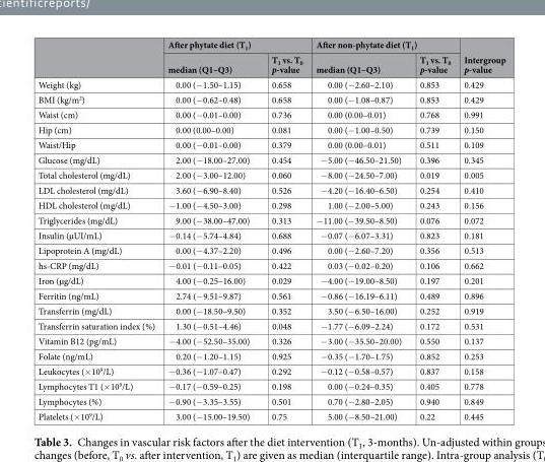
<table><thead><tr><td rowspan="2"></td><td colspan="2">After phytate diet (T<sub>1</sub>)</td><td colspan="2">After non-phytate diet (T<sub>1</sub>)</td><td rowspan="2">Intergroup p-value</td></tr><tr><td>median (Q1–Q3)</td><td>T<sub>1</sub> vs. T<sub>0</sub> p-value</td><td>median (Q1–Q3)</td><td>T<sub>1</sub> vs. T<sub>0</sub> p-value</td></tr></thead><tbody><tr><td>Weight (kg)</td><td>0.00 (−1.50–1.15)</td><td>0.658</td><td>0.00 (−2.60–2.10)</td><td>0.853</td><td>0.429</td></tr><tr><td>BMI (kg/m<sup>2</sup>)</td><td>0.00 (−0.62–0.48)</td><td>0.658</td><td>0.00 (−1.08–0.87)</td><td>0.853</td><td>0.429</td></tr><tr><td>Waist (cm)</td><td>0.00 (−0.01–0.00)</td><td>0.736</td><td>0.00 (0.00–0.01)</td><td>0.768</td><td>0.991</td></tr><tr><td>Hip (cm)</td><td>0.00 (0.00–0.00)</td><td>0.081</td><td>0.00 (−1.00–0.50)</td><td>0.739</td><td>0.150</td></tr><tr><td>Waist/Hip</td><td>0.00 (−0.01–0.00)</td><td>0.379</td><td>0.00 (0.00–0.01)</td><td>0.511</td><td>0.109</td></tr><tr><td>Glucose (mg/dL)</td><td>2.00 (−18.00–27.00)</td><td>0.454</td><td>−5.00 (−46.50–21.50)</td><td>0.396</td><td>0.345</td></tr><tr><td>Total cholesterol (mg/dL)</td><td>2.00 (−3.00–12.00)</td><td>0.060</td><td>−8.00 (−24.50–7.00)</td><td>0.019</td><td>0.005</td></tr><tr><td>LDL cholesterol (mg/dL)</td><td>3.60 (−6.90–8.40)</td><td>0.526</td><td>−4.20 (−16.40–6.50)</td><td>0.254</td><td>0.410</td></tr><tr><td>HDL cholesterol (mg/dL)</td><td>−1.00 (−4.50–3.00)</td><td>0.298</td><td>1.00 (−2.00–5.00)</td><td>0.243</td><td>0.156</td></tr><tr><td>Triglycerides (mg/dL)</td><td>9.00 (−38.00–47.00)</td><td>0.313</td><td>−11.00 (−39.50–8.50)</td><td>0.076</td><td>0.072</td></tr><tr><td>Insulin (µUI/mL)</td><td>−0.14 (−5.74–4.84)</td><td>0.688</td><td>−0.07 (−6.07–3.31)</td><td>0.823</td><td>0.181</td></tr><tr><td>Lipoprotein A (mg/dL)</td><td>0.00 (−4.37–2.20)</td><td>0.496</td><td>0.00 (−2.60–7.20)</td><td>0.356</td><td>0.513</td></tr><tr><td>hs-CRP (mg/dL)</td><td>−0.01 (−0.11–0.05)</td><td>0.422</td><td>0.03 (−0.02–0.20)</td><td>0.106</td><td>0.662</td></tr><tr><td>Iron (µg/dL)</td><td>4.00 (−0.25–16.00)</td><td>0.029</td><td>−4.00 (−19.00–8.50)</td><td>0.197</td><td>0.201</td></tr><tr><td>Ferritin (ng/mL)</td><td>2.74 (−9.51–9.87)</td><td>0.561</td><td>−0.86 (−16.19–6.11)</td><td>0.489</td><td>0.896</td></tr><tr><td>Transferrin (mg/dL)</td><td>0.00 (−18.50–9.50)</td><td>0.352</td><td>3.50 (−6.50–16.00)</td><td>0.252</td><td>0.919</td></tr><tr><td>Transferrin saturation index (%)</td><td>1.30 (−0.51–4.46)</td><td>0.048</td><td>−1.77 (−6.09–2.24)</td><td>0.172</td><td>0.531</td></tr><tr><td>Vitamin B12 (pg/mL)</td><td>−4.00 (−52.50–35.00)</td><td>0.326</td><td>−3.00 (−35.50–20.00)</td><td>0.550</td><td>0.137</td></tr><tr><td>Folate (ng/mL)</td><td>0.20 (−1.20–1.15)</td><td>0.925</td><td>−0.35 (−1.70–1.75)</td><td>0.852</td><td>0.253</td></tr><tr><td>Leukocytes (×10<sup>9</sup>/L)</td><td>−0.36 (−1.07–0.47)</td><td>0.292</td><td>−0.12 (−0.58–0.57)</td><td>0.837</td><td>0.158</td></tr><tr><td>Lymphocytes T1 (×10<sup>9</sup>/L)</td><td>−0.17 (−0.59–0.25)</td><td>0.198</td><td>0.00 (−0.24–0.35)</td><td>0.405</td><td>0.778</td></tr><tr><td>Lymphocytes (%)</td><td>−0.90 (−3.35–3.55)</td><td>0.501</td><td>0.70 (−2.80–2.05)</td><td>0.940</td><td>0.849</td></tr><tr><td>Platelets (×10<sup>9</sup>/L)</td><td>3.00 (−15.00–19.50)</td><td>0.75</td><td>5.00 (−8.50–21.00)</td><td>0.22</td><td>0.445</td></tr></tbody></table>